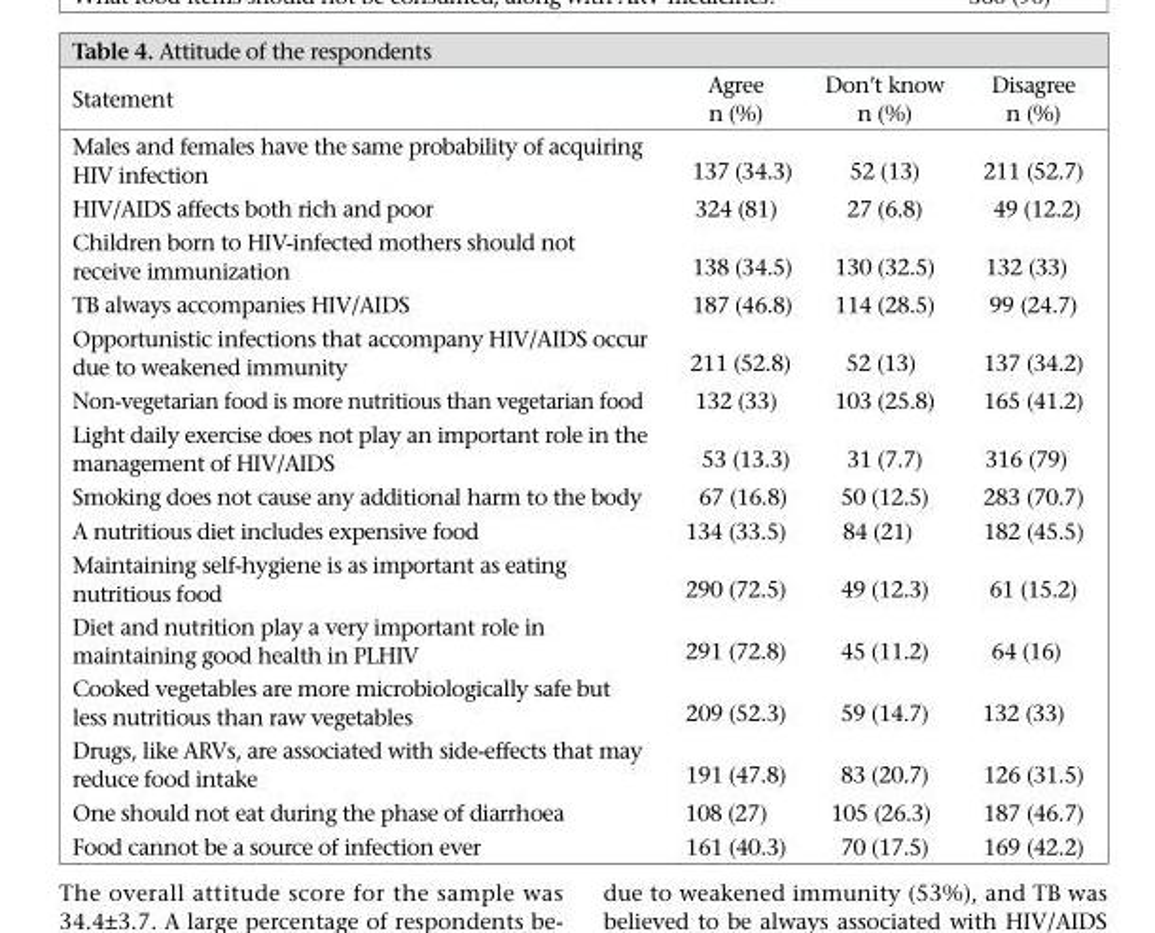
<table><thead><tr><td>Statement</td><td>Agree n (%)</td><td>Don’t know n (%)</td><td>Disagree n (%)</td></tr></thead><tbody><tr><td>Males and females have the same probability of acquiring HIV infection</td><td>137 (34.3)</td><td>52 (13)</td><td>211 (52.7)</td></tr><tr><td>HIV/AIDS affects both rich and poor</td><td>324 (81)</td><td>27 (6.8)</td><td>49 (12.2)</td></tr><tr><td>Children born to HIV-infected mothers should not receive immunization</td><td>138 (34.5)</td><td>130 (32.5)</td><td>132 (33)</td></tr><tr><td>TB always accompanies HIV/AIDS</td><td>187 (46.8)</td><td>114 (28.5)</td><td>99 (24.7)</td></tr><tr><td>Opportunistic infections that accompany HIV/AIDS occur due to weakened immunity</td><td>211 (52.8)</td><td>52 (13)</td><td>137 (34.2)</td></tr><tr><td>Non-vegetarian food is more nutritious than vegetarian food</td><td>132 (33)</td><td>103 (25.8)</td><td>165 (41.2)</td></tr><tr><td>Light daily exercise does not play an important role in the management of HIV/AIDS</td><td>53 (13.3)</td><td>31 (7.7)</td><td>316 (79)</td></tr><tr><td>Smoking does not cause any additional harm to the body</td><td>67 (16.8)</td><td>50 (12.5)</td><td>283 (70.7)</td></tr><tr><td>A nutritious diet includes expensive food</td><td>134 (33.5)</td><td>84 (21)</td><td>182 (45.5)</td></tr><tr><td>Maintaining self-hygiene is as important as eating nutritious food</td><td>290 (72.5)</td><td>49 (12.3)</td><td>61 (15.2)</td></tr><tr><td>Diet and nutrition play a very important role in maintaining good health in PLHIV</td><td>291 (72.8)</td><td>45 (11.2)</td><td>64 (16)</td></tr><tr><td>Cooked vegetables are more microbiologically safe but less nutritious than raw vegetables</td><td>209 (52.3)</td><td>59 (14.7)</td><td>132 (33)</td></tr><tr><td>Drugs, like ARVs, are associated with side-effects that may reduce food intake</td><td>191 (47.8)</td><td>83 (20.7)</td><td>126 (31.5)</td></tr><tr><td>One should not eat during the phase of diarrhoea</td><td>108 (27)</td><td>105 (26.3)</td><td>187 (46.7)</td></tr><tr><td>Food cannot be a source of infection ever</td><td>161 (40.3)</td><td>70 (17.5)</td><td>169 (42.2)</td></tr></tbody></table>